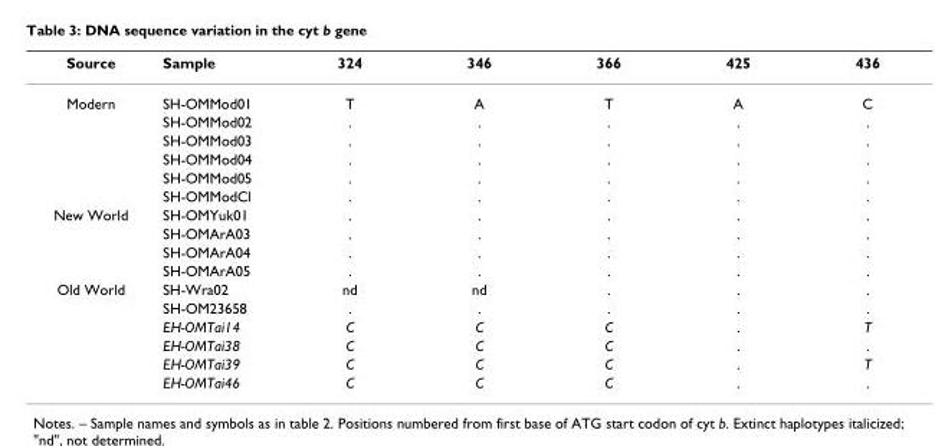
<table><thead><tr><td>Source</td><td>Sample</td><td>324</td><td>346</td><td>366</td><td>425</td><td>436</td></tr></thead><tbody><tr><td rowspan="6">Modern</td><td>SH-OMMod01</td><td>T</td><td>A</td><td>T</td><td>A</td><td>C</td></tr><tr><td>SH-OMMod02</td><td>.</td><td>.</td><td>.</td><td>.</td><td>.</td></tr><tr><td>SH-OMMod03</td><td>.</td><td>.</td><td>.</td><td>.</td><td>.</td></tr><tr><td>SH-OMMod04</td><td>.</td><td>.</td><td>.</td><td>.</td><td>.</td></tr><tr><td>SH-OMMod05</td><td>.</td><td>.</td><td>.</td><td>.</td><td>.</td></tr><tr><td>SH-OMModCl</td><td>.</td><td>.</td><td>.</td><td>.</td><td>.</td></tr><tr><td rowspan="4">New World</td><td>SH-OMYuk01</td><td>.</td><td>.</td><td>.</td><td>.</td><td>.</td></tr><tr><td>SH-OMArA03</td><td>.</td><td>.</td><td>.</td><td>.</td><td>.</td></tr><tr><td>SH-OMArA04</td><td>.</td><td>.</td><td>.</td><td>.</td><td>.</td></tr><tr><td>SH-OMArA05</td><td>.</td><td>.</td><td>.</td><td>.</td><td>.</td></tr><tr><td rowspan="6">Old World</td><td>SH-Wra02</td><td>nd</td><td>nd</td><td>.</td><td>.</td><td>.</td></tr><tr><td>SH-OM23658</td><td>.</td><td>.</td><td>.</td><td>.</td><td>.</td></tr><tr><td>EH-OMTai14</td><td>C</td><td>C</td><td>C</td><td>.</td><td>T</td></tr><tr><td>EH-OMTai38</td><td>C</td><td>C</td><td>C</td><td>.</td><td>.</td></tr><tr><td>EH-OMTai39</td><td>C</td><td>C</td><td>C</td><td>.</td><td>T</td></tr><tr><td>EH-OMTai46</td><td>C</td><td>C</td><td>C</td><td>.</td><td>.</td></tr></tbody></table>